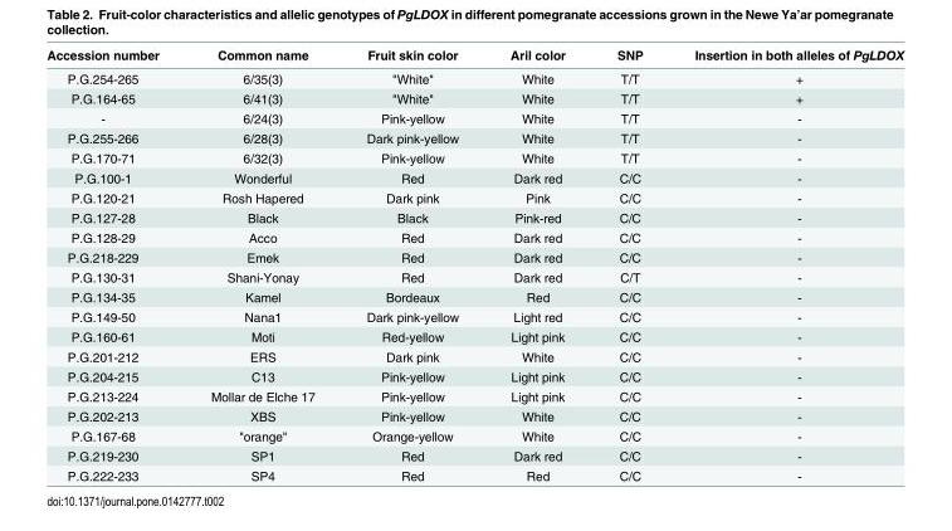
<table><thead><tr><td>Accession number</td><td>Common name</td><td>Fruit skin color</td><td>Aril color</td><td>SNP</td><td>Insertion in both alleles of PgLDOX</td></tr></thead><tbody><tr><td>P.G.254-265</td><td>6/35(3)</td><td>&quot;White&quot;</td><td>White</td><td>T/T</td><td>+</td></tr><tr><td>P.G.164-65</td><td>6/41(3)</td><td>&quot;White&quot;</td><td>White</td><td>T/T</td><td>+</td></tr><tr><td>-</td><td>6/24(3)</td><td>Pink-yellow</td><td>White</td><td>T/T</td><td>-</td></tr><tr><td>P.G.255-266</td><td>6/28(3)</td><td>Dark pink-yellow</td><td>White</td><td>T/T</td><td>-</td></tr><tr><td>P.G.170-71</td><td>6/32(3)</td><td>Pink-yellow</td><td>White</td><td>T/T</td><td>-</td></tr><tr><td>P.G.100-1</td><td>Wonderful</td><td>Red</td><td>Dark red</td><td>C/C</td><td>-</td></tr><tr><td>P.G.120-21</td><td>Rosh Hapered</td><td>Dark pink</td><td>Pink</td><td>C/C</td><td>-</td></tr><tr><td>P.G.127-28</td><td>Black</td><td>Black</td><td>Pink-red</td><td>C/C</td><td>-</td></tr><tr><td>P.G.128-29</td><td>Acco</td><td>Red</td><td>Dark red</td><td>C/C</td><td>-</td></tr><tr><td>P.G.218-229</td><td>Emek</td><td>Red</td><td>Dark red</td><td>C/C</td><td>-</td></tr><tr><td>P.G.130-31</td><td>Shani-Yonay</td><td>Red</td><td>Dark red</td><td>C/T</td><td>-</td></tr><tr><td>P.G.134-35</td><td>Kamel</td><td>Bordeaux</td><td>Red</td><td>C/C</td><td>-</td></tr><tr><td>P.G.149-50</td><td>Nana1</td><td>Dark pink-yellow</td><td>Light red</td><td>C/C</td><td>-</td></tr><tr><td>P.G.160-61</td><td>Moti</td><td>Red-yellow</td><td>Light pink</td><td>C/C</td><td>-</td></tr><tr><td>P.G.201-212</td><td>ERS</td><td>Dark pink</td><td>White</td><td>C/C</td><td>-</td></tr><tr><td>P.G.204-215</td><td>C13</td><td>Pink-yellow</td><td>Light pink</td><td>C/C</td><td>-</td></tr><tr><td>P.G.213-224</td><td>Mollar de Elche 17</td><td>Pink-yellow</td><td>Light pink</td><td>C/C</td><td>-</td></tr><tr><td>P.G.202-213</td><td>XBS</td><td>Pink-yellow</td><td>White</td><td>C/C</td><td>-</td></tr><tr><td>P.G.167-68</td><td>&quot;orange&quot;</td><td>Orange-yellow</td><td>White</td><td>C/C</td><td>-</td></tr><tr><td>P.G.219-230</td><td>SP1</td><td>Red</td><td>Dark red</td><td>C/C</td><td>-</td></tr><tr><td>P.G.222-233</td><td>SP4</td><td>Red</td><td>Red</td><td>C/C</td><td>-</td></tr></tbody></table>